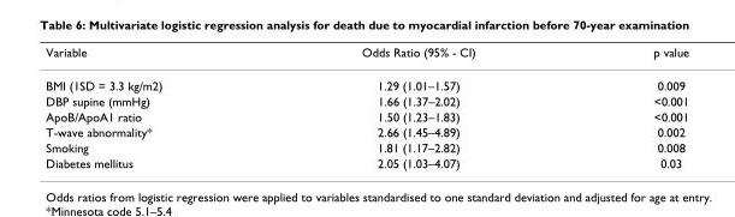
<table><thead><tr><td>Variable</td><td>Odds Ratio (95% - CI)</td><td>p value</td></tr></thead><tbody><tr><td>BMI (1SD = 3.3 kg/m2)</td><td>1.29 (1.01–1.57)</td><td>0.009</td></tr><tr><td>DBP supine (mmHg)</td><td>1.66 (1.37–2.02)</td><td>&lt;0.001</td></tr><tr><td>ApoB/ApoA1 ratio</td><td>1.50 (1.23–1.83)</td><td>&lt;0.001</td></tr><tr><td>T-wave abnormality*</td><td>2.66 (1.45–4.89)</td><td>0.002</td></tr><tr><td>Smoking</td><td>1.81 (1.17–2.82)</td><td>0.008</td></tr><tr><td>Diabetes mellitus</td><td>2.05 (1.03–4.07)</td><td>0.03</td></tr></tbody></table>